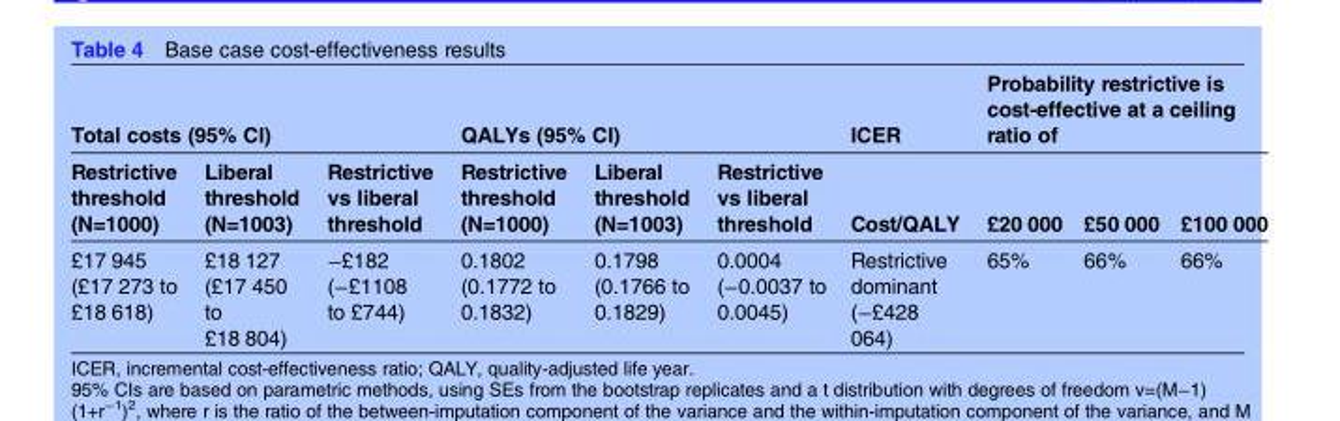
<table><thead><tr><td colspan="3">Total costs (95% CI)</td><td colspan="3">QALYs (95% CI)</td><td rowspan="2">ICER Cost/QALY</td><td colspan="3">Probability restrictive is cost-effective at a ceiling ratio of</td></tr><tr><td>Restrictive threshold (N=1000)</td><td>Liberal threshold (N=1003)</td><td>Restrictive vs liberal threshold</td><td>Restrictive threshold (N=1000)</td><td>Liberal threshold (N=1003)</td><td>Restrictive vs liberal threshold</td><td>£20 000</td><td>£50 000</td><td>£100 000</td></tr></thead><tbody><tr><td>£17 945 (£17 273 to £18 618)</td><td>£18 127 (£17 450 to £18 804)</td><td>−£182 (−£1108 to £744)</td><td>0.1802 (0.1772 to 0.1832)</td><td>0.1798 (0.1766 to 0.1829)</td><td>0.0004 (−0.0037 to 0.0045)</td><td>Restrictive dominant (−£428 064)</td><td>65%</td><td>66%</td><td>66%</td></tr></tbody></table>